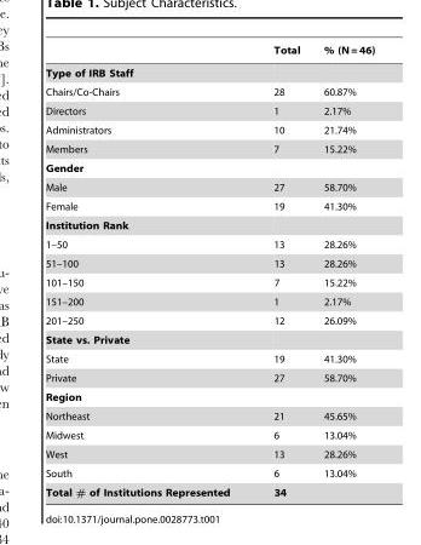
<table><thead><tr><td></td><td>Total</td><td>% (N = 46)</td></tr></thead><tbody><tr><td colspan="3">Type of IRB Staff</td></tr><tr><td>Chairs/Co-Chairs</td><td>28</td><td>60.87%</td></tr><tr><td>Directors</td><td>1</td><td>2.17%</td></tr><tr><td>Administrators</td><td>10</td><td>21.74%</td></tr><tr><td>Members</td><td>7</td><td>15.22%</td></tr><tr><td colspan="3">Gender</td></tr><tr><td>Male</td><td>27</td><td>58.70%</td></tr><tr><td>Female</td><td>19</td><td>41.30%</td></tr><tr><td colspan="3">Institution Rank</td></tr><tr><td>1–50</td><td>13</td><td>28.26%</td></tr><tr><td>51–100</td><td>13</td><td>28.26%</td></tr><tr><td>101–150</td><td>7</td><td>15.22%</td></tr><tr><td>151–200</td><td>1</td><td>2.17%</td></tr><tr><td>201–250</td><td>12</td><td>26.09%</td></tr><tr><td colspan="3">State vs. Private</td></tr><tr><td>State</td><td>19</td><td>41.30%</td></tr><tr><td>Private</td><td>27</td><td>58.70%</td></tr><tr><td colspan="3">Region</td></tr><tr><td>Northeast</td><td>21</td><td>45.65%</td></tr><tr><td>Midwest</td><td>6</td><td>13.04%</td></tr><tr><td>West</td><td>13</td><td>28.26%</td></tr><tr><td>South</td><td>6</td><td>13.04%</td></tr><tr><td>Total # of Institutions Represented</td><td colspan="2">34</td></tr></tbody></table>